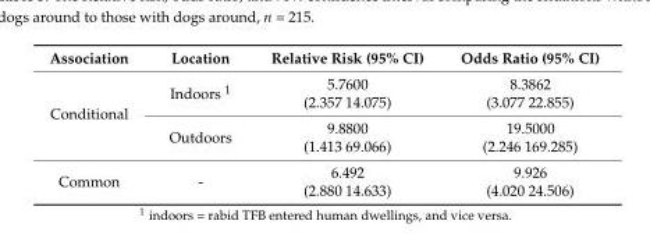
<table><thead><tr><td>Association</td><td>Location</td><td>Relative Risk (95% CI)</td><td>Odds Ratio (95% CI)</td></tr></thead><tbody><tr><td rowspan="2">Conditional</td><td>Indoors <sup>1</sup></td><td>5.7600 (2.357 14.075)</td><td>8.3862 (3.077 22.855)</td></tr><tr><td>Outdoors</td><td>9.8800 (1.413 69.066)</td><td>19.5000 (2.246 169.285)</td></tr><tr><td>Common</td><td>-</td><td>6.492 (2.880 14.633)</td><td>9.926 (4.020 24.506)</td></tr></tbody></table>